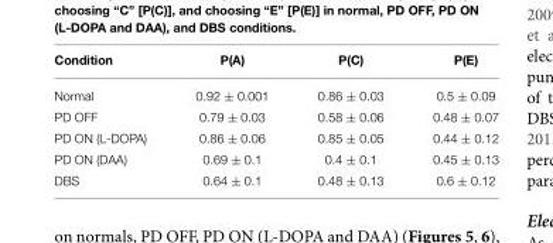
<table><thead><tr><td>Condition</td><td>P(A)</td><td>P(C)</td><td>P(E)</td></tr></thead><tbody><tr><td>Normal</td><td>0.92 ± 0.001</td><td>0.86 ± 0.03</td><td>0.5 ± 0.09</td></tr><tr><td>PD OFF</td><td>0.79 ± 0.03</td><td>0.58 ± 0.06</td><td>0.48 ± 0.07</td></tr><tr><td>PD ON (L-DOPA)</td><td>0.86 ± 0.06</td><td>0.85 ± 0.05</td><td>0.44 ± 0.12</td></tr><tr><td>PD ON (DAA)</td><td>0.69 ± 0.1</td><td>0.4 ± 0.1</td><td>0.45 ± 0.13</td></tr><tr><td>DBS</td><td>0.64 ± 0.1</td><td>0.48 ± 0.13</td><td>0.6 ± 0.12</td></tr></tbody></table>